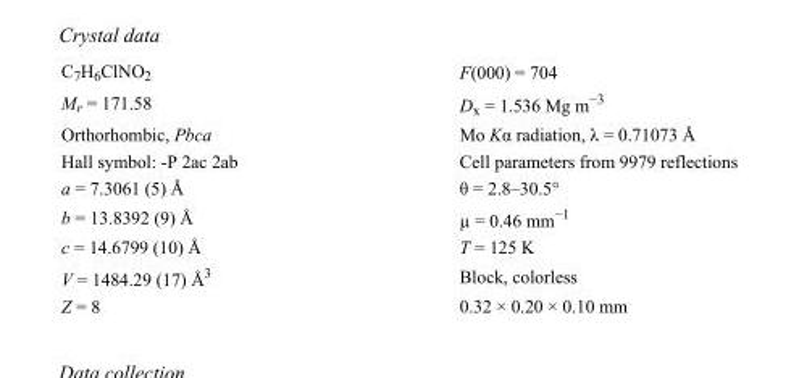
<table><tbody><tr><td>C<sub>7</sub>H<sub>6</sub>ClNO<sub>2</sub></td><td>F(000) = 704</td></tr><tr><td>M<sub>r</sub> = 171.58</td><td>D<sub>x</sub> = 1.536 Mg m<sup>−3</sup></td></tr><tr><td>Orthorhombic, Pbca</td><td>Mo Kα radiation, λ = 0.71073 Å</td></tr><tr><td>Hall symbol: -P 2ac 2ab</td><td>Cell parameters from 9979 reflections</td></tr><tr><td>a = 7.3061 (5) Å</td><td>θ = 2.8–30.5°</td></tr><tr><td>b = 13.8392 (9) Å</td><td>µ = 0.46 mm<sup>−1</sup></td></tr><tr><td>c = 14.6799 (10) Å</td><td>T = 125 K</td></tr><tr><td>V = 1484.29 (17) Å<sup>3</sup></td><td>Block, colorless</td></tr><tr><td>Z = 8</td><td>0.32 × 0.20 × 0.10 mm</td></tr></tbody></table>